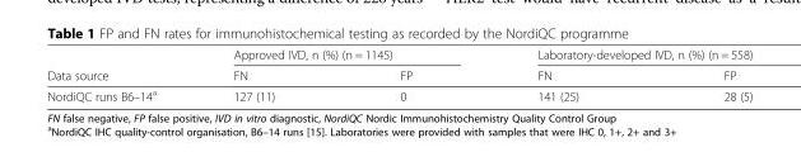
<table><thead><tr><td rowspan="2">Data source</td><td colspan="2">Approved IVD, n (%) (n = 1145)</td><td colspan="2">Laboratory-developed IVD, n (%) (n = 558)</td></tr><tr><td>FN</td><td>FP</td><td>FN</td><td>FP</td></tr></thead><tbody><tr><td>NordiQC runs B6–14<sup>a</sup></td><td>127 (11)</td><td>0</td><td>141 (25)</td><td>28 (5)</td></tr></tbody></table>